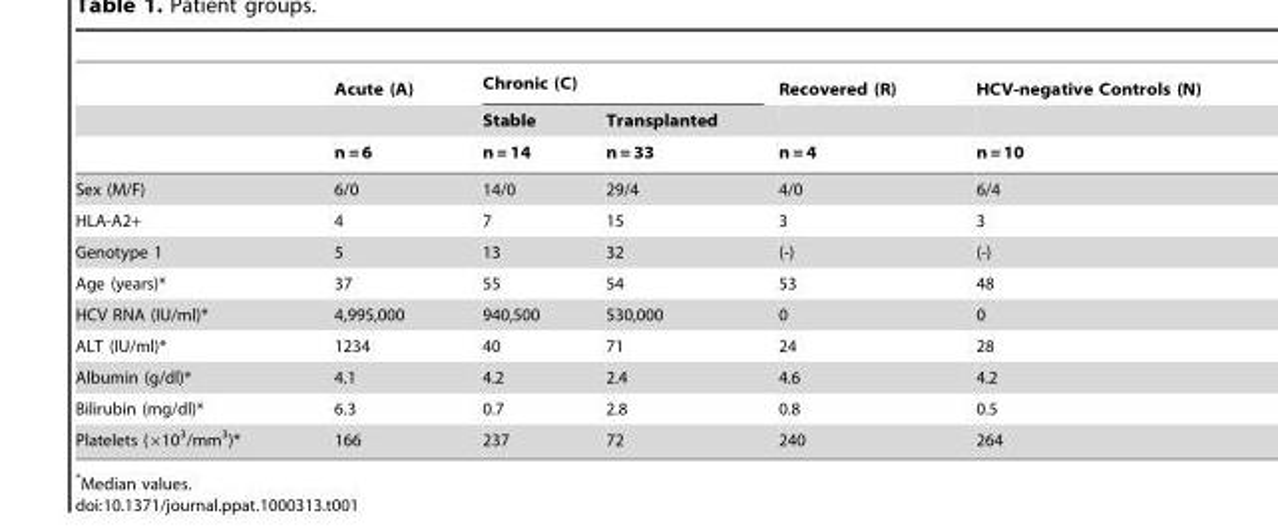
<table><thead><tr><td rowspan="3"></td><td rowspan="3">Acute (A) n = 6</td><td colspan="2">Chronic (C)</td><td rowspan="3">Recovered (R) n = 4</td><td rowspan="3">HCV-negative Controls (N) n = 10</td></tr><tr><td rowspan="2">Stable n = 14</td><td rowspan="2">Transplanted n = 33</td></tr><tr></tr></thead><tbody><tr><td>Sex (M/F)</td><td>6/0</td><td>14/0</td><td>29/4</td><td>4/0</td><td>6/4</td></tr><tr><td>HLA-A2+</td><td>4</td><td>7</td><td>15</td><td>3</td><td>3</td></tr><tr><td>Genotype 1</td><td>5</td><td>13</td><td>32</td><td>(-)</td><td>(-)</td></tr><tr><td>Age (years)*</td><td>37</td><td>55</td><td>54</td><td>53</td><td>48</td></tr><tr><td>HCV RNA (IU/ml)*</td><td>4,995,000</td><td>940,500</td><td>530,000</td><td>0</td><td>0</td></tr><tr><td>ALT (IU/ml)*</td><td>1234</td><td>40</td><td>71</td><td>24</td><td>28</td></tr><tr><td>Albumin (g/dl)*</td><td>4.1</td><td>4.2</td><td>2.4</td><td>4.6</td><td>4.2</td></tr><tr><td>Bilirubin (mg/dl)*</td><td>6.3</td><td>0.7</td><td>2.8</td><td>0.8</td><td>0.5</td></tr><tr><td>Platelets (×10<sup>3</sup>/mm<sup>3</sup>)*</td><td>166</td><td>237</td><td>72</td><td>240</td><td>264</td></tr></tbody></table>